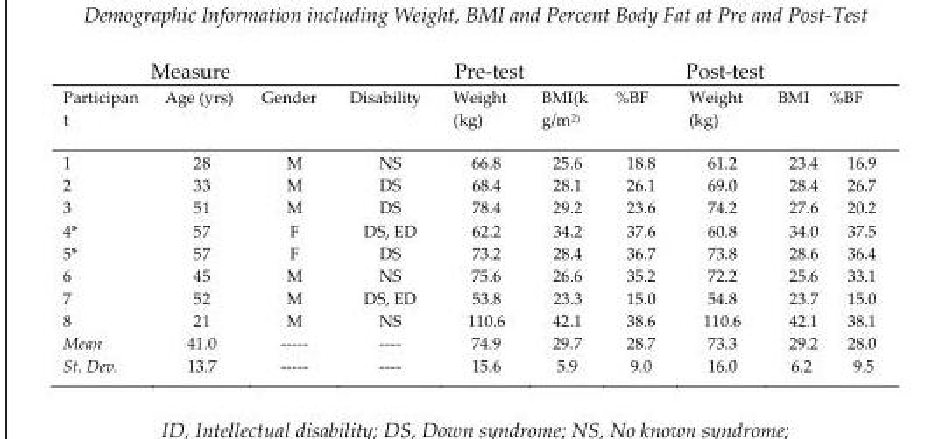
<table><thead><tr><td rowspan="2">Participan t</td><td colspan="3">Measure</td><td colspan="3">Pre-test</td><td colspan="3">Post-test</td></tr><tr><td>Age (yrs)</td><td>Gender</td><td>Disability</td><td>Weight (kg)</td><td>BMI(k g/m<sup>2</sup>)</td><td>%BF</td><td>Weight (kg)</td><td>BMI</td><td>%BF</td></tr></thead><tbody><tr><td>1</td><td>28</td><td>M</td><td>NS</td><td>66.8</td><td>25.6</td><td>18.8</td><td>61.2</td><td>23.4</td><td>16.9</td></tr><tr><td>2</td><td>33</td><td>M</td><td>DS</td><td>68.4</td><td>28.1</td><td>26.1</td><td>69.0</td><td>28.4</td><td>26.7</td></tr><tr><td>3</td><td>51</td><td>M</td><td>DS</td><td>78.4</td><td>29.2</td><td>23.6</td><td>74.2</td><td>27.6</td><td>20.2</td></tr><tr><td>4*</td><td>57</td><td>F</td><td>DS, ED</td><td>62.2</td><td>34.2</td><td>37.6</td><td>60.8</td><td>34.0</td><td>37.5</td></tr><tr><td>5*</td><td>57</td><td>F</td><td>DS</td><td>73.2</td><td>28.4</td><td>36.7</td><td>73.8</td><td>28.6</td><td>36.4</td></tr><tr><td>6</td><td>45</td><td>M</td><td>NS</td><td>75.6</td><td>26.6</td><td>35.2</td><td>72.2</td><td>25.6</td><td>33.1</td></tr><tr><td>7</td><td>52</td><td>M</td><td>DS, ED</td><td>53.8</td><td>23.3</td><td>15.0</td><td>54.8</td><td>23.7</td><td>15.0</td></tr><tr><td>8</td><td>21</td><td>M</td><td>NS</td><td>110.6</td><td>42.1</td><td>38.6</td><td>110.6</td><td>42.1</td><td>38.1</td></tr><tr><td>Mean</td><td>41.0</td><td>-----</td><td>----</td><td>74.9</td><td>29.7</td><td>28.7</td><td>73.3</td><td>29.2</td><td>28.0</td></tr><tr><td>St. Dev.</td><td>13.7</td><td>-----</td><td>----</td><td>15.6</td><td>5.9</td><td>9.0</td><td>16.0</td><td>6.2</td><td>9.5</td></tr></tbody></table>